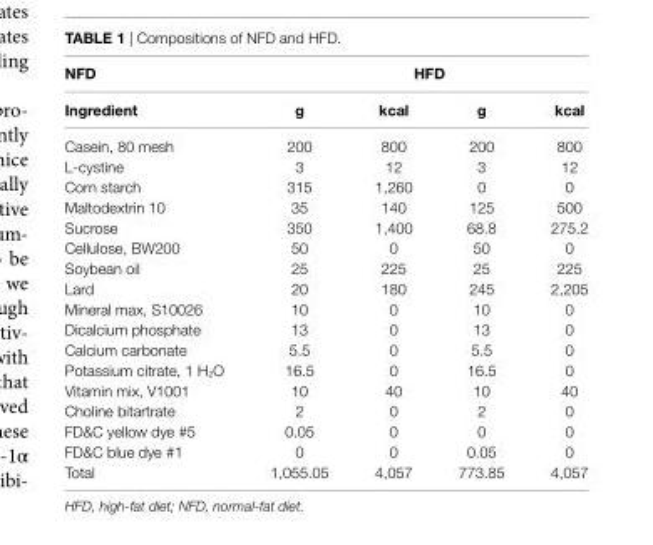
<table><thead><tr><td rowspan="2">nFD ingredient</td><td colspan="4">hFD</td></tr><tr><td>g</td><td>kcal</td><td>g</td><td>kcal</td></tr></thead><tbody><tr><td>Casein, 80 mesh</td><td>200</td><td>800</td><td>200</td><td>800</td></tr><tr><td>L-cystine</td><td>3</td><td>12</td><td>3</td><td>12</td></tr><tr><td>Corn starch</td><td>315</td><td>1,260</td><td>0</td><td>0</td></tr><tr><td>Maltodextrin 10</td><td>35</td><td>140</td><td>125</td><td>500</td></tr><tr><td>Sucrose</td><td>350</td><td>1,400</td><td>68.8</td><td>275.2</td></tr><tr><td>Cellulose, BW200</td><td>50</td><td>0</td><td>50</td><td>0</td></tr><tr><td>Soybean oil</td><td>25</td><td>225</td><td>25</td><td>225</td></tr><tr><td>Lard</td><td>20</td><td>180</td><td>245</td><td>2,205</td></tr><tr><td>Mineral max, S10026</td><td>10</td><td>0</td><td>10</td><td>0</td></tr><tr><td>Dicalcium phosphate</td><td>13</td><td>0</td><td>13</td><td>0</td></tr><tr><td>Calcium carbonate</td><td>5.5</td><td>0</td><td>5.5</td><td>0</td></tr><tr><td>Potassium citrate, 1 H<sub>2</sub>O</td><td>16.5</td><td>0</td><td>16.5</td><td>0</td></tr><tr><td>Vitamin mix, V1001</td><td>10</td><td>40</td><td>10</td><td>40</td></tr><tr><td>Choline bitartrate</td><td>2</td><td>0</td><td>2</td><td>0</td></tr><tr><td>FD&amp;C yellow dye #5</td><td>0.05</td><td>0</td><td>0</td><td>0</td></tr><tr><td>FD&amp;C blue dye #1</td><td>0</td><td>0</td><td>0.05</td><td>0</td></tr><tr><td>Total</td><td>1,055.05</td><td>4,057</td><td>773.85</td><td>4,057</td></tr></tbody></table>